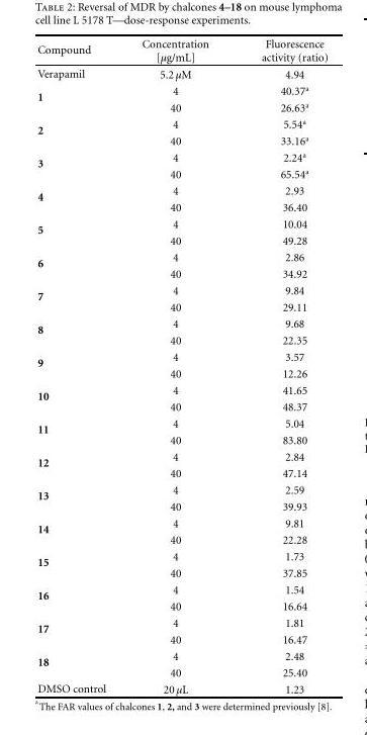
<table><thead><tr><td>Compound</td><td>Concentration [μg/mL]</td><td>Fluorescence activity (ratio)</td></tr></thead><tbody><tr><td>Verapamil</td><td>5.2 μM</td><td>4.94</td></tr><tr><td rowspan="2">1</td><td>4</td><td>40.37<sup>a</sup></td></tr><tr><td>40</td><td>26.63<sup>a</sup></td></tr><tr><td rowspan="2">2</td><td>4</td><td>5.54<sup>a</sup></td></tr><tr><td>40</td><td>33.16<sup>a</sup></td></tr><tr><td rowspan="2">3</td><td>4</td><td>2.24<sup>a</sup></td></tr><tr><td>40</td><td>65.54<sup>a</sup></td></tr><tr><td rowspan="2">4</td><td>4</td><td>2.93</td></tr><tr><td>40</td><td>36.40</td></tr><tr><td rowspan="2">5</td><td>4</td><td>10.04</td></tr><tr><td>40</td><td>49.28</td></tr><tr><td rowspan="2">6</td><td>4</td><td>2.86</td></tr><tr><td>40</td><td>34.92</td></tr><tr><td rowspan="2">7</td><td>4</td><td>9.84</td></tr><tr><td>40</td><td>29.11</td></tr><tr><td rowspan="2">8</td><td>4</td><td>9.68</td></tr><tr><td>40</td><td>22.35</td></tr><tr><td rowspan="2">9</td><td>4</td><td>3.57</td></tr><tr><td>40</td><td>12.26</td></tr><tr><td rowspan="2">10</td><td>4</td><td>41.65</td></tr><tr><td>40</td><td>48.37</td></tr><tr><td rowspan="2">11</td><td>4</td><td>5.04</td></tr><tr><td>40</td><td>83.80</td></tr><tr><td rowspan="2">12</td><td>4</td><td>2.84</td></tr><tr><td>40</td><td>47.14</td></tr><tr><td rowspan="2">13</td><td>4</td><td>2.59</td></tr><tr><td>40</td><td>39.93</td></tr><tr><td rowspan="2">14</td><td>4</td><td>9.81</td></tr><tr><td>40</td><td>22.28</td></tr><tr><td rowspan="2">15</td><td>4</td><td>1.73</td></tr><tr><td>40</td><td>37.85</td></tr><tr><td rowspan="2">16</td><td>4</td><td>1.54</td></tr><tr><td>40</td><td>16.64</td></tr><tr><td rowspan="2">17</td><td>4</td><td>1.81</td></tr><tr><td>40</td><td>16.47</td></tr><tr><td rowspan="2">18</td><td>4</td><td>2.48</td></tr><tr><td>40</td><td>25.40</td></tr><tr><td>DMSO control</td><td>20 μL</td><td>1.23</td></tr></tbody></table>